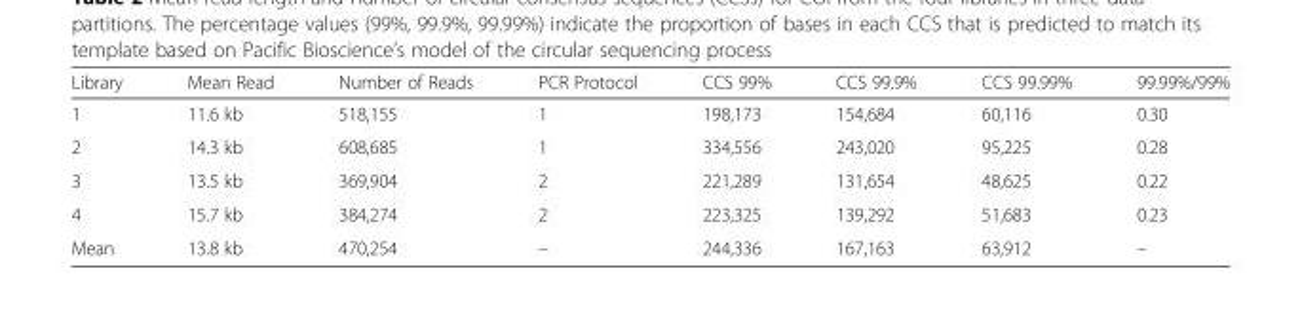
<table><thead><tr><td>Library</td><td>Mean Read</td><td>Number of Reads</td><td>PCR Protocol</td><td>CCS 99%</td><td>CCS 99.9%</td><td>CCS 99.99%</td><td>99.99%/99%</td></tr></thead><tbody><tr><td>1</td><td>11.6 kb</td><td>518,155</td><td>1</td><td>198,173</td><td>154,684</td><td>60,116</td><td>0.30</td></tr><tr><td>2</td><td>14.3 kb</td><td>608,685</td><td>1</td><td>334,556</td><td>243,020</td><td>95,225</td><td>0.28</td></tr><tr><td>3</td><td>13.5 kb</td><td>369,904</td><td>2</td><td>221,289</td><td>131,654</td><td>48,625</td><td>0.22</td></tr><tr><td>4</td><td>15.7 kb</td><td>384,274</td><td>2</td><td>223,325</td><td>139,292</td><td>51,683</td><td>0.23</td></tr><tr><td>Mean</td><td>13.8 kb</td><td>470,254</td><td>–</td><td>244,336</td><td>167,163</td><td>63,912</td><td>–</td></tr></tbody></table>